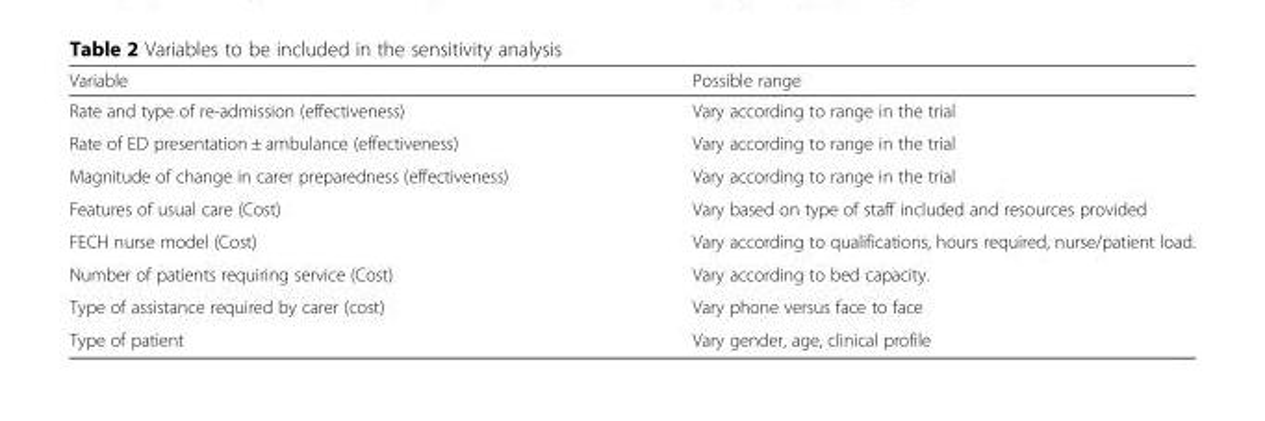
<table><thead><tr><td>Variable</td><td>Possible range</td></tr></thead><tbody><tr><td>Rate and type of re-admission (effectiveness)</td><td>Vary according to range in the trial</td></tr><tr><td>Rate of ED presentation ± ambulance (effectiveness)</td><td>Vary according to range in the trial</td></tr><tr><td>Magnitude of change in carer preparedness (effectiveness)</td><td>Vary according to range in the trial</td></tr><tr><td>Features of usual care (Cost)</td><td>Vary based on type of staff included and resources provided</td></tr><tr><td>FECH nurse model (Cost)</td><td>Vary according to qualifications, hours required, nurse/patient load.</td></tr><tr><td>Number of patients requiring service (Cost)</td><td>Vary according to bed capacity.</td></tr><tr><td>Type of assistance required by carer (cost)</td><td>Vary phone versus face to face</td></tr><tr><td>Type of patient</td><td>Vary gender, age, clinical profile</td></tr></tbody></table>